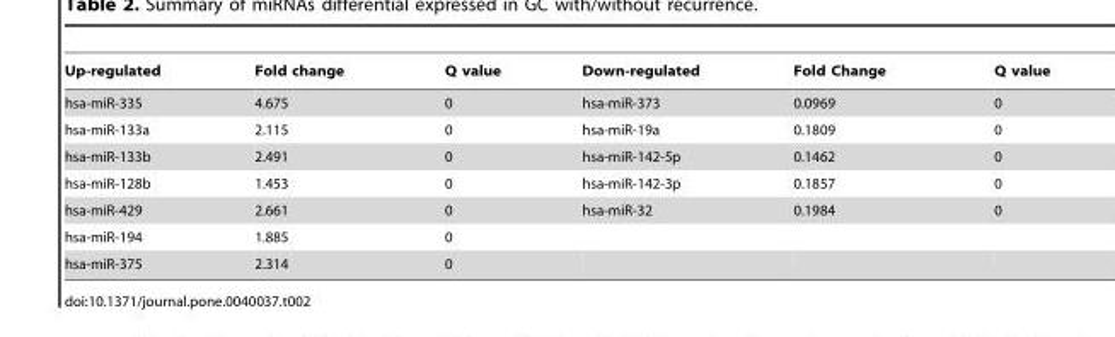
<table><thead><tr><td>Up-regulated</td><td>Fold change</td><td>Q value</td><td>Down-regulated</td><td>Fold Change</td><td>Q value</td></tr></thead><tbody><tr><td>hsa-miR-335</td><td>4.675</td><td>0</td><td>hsa-miR-373</td><td>0.0969</td><td>0</td></tr><tr><td>hsa-miR-133a</td><td>2.115</td><td>0</td><td>hsa-miR-19a</td><td>0.1809</td><td>0</td></tr><tr><td>hsa-miR-133b</td><td>2.491</td><td>0</td><td>hsa-miR-142-5p</td><td>0.1462</td><td>0</td></tr><tr><td>hsa-miR-128b</td><td>1.453</td><td>0</td><td>hsa-miR-142-3p</td><td>0.1857</td><td>0</td></tr><tr><td>hsa-miR-429</td><td>2.661</td><td>0</td><td>hsa-miR-32</td><td>0.1984</td><td>0</td></tr><tr><td>hsa-miR-194</td><td>1.885</td><td>0</td><td></td><td></td><td></td></tr><tr><td>hsa-miR-375</td><td>2.314</td><td>0</td><td></td><td></td><td></td></tr></tbody></table>